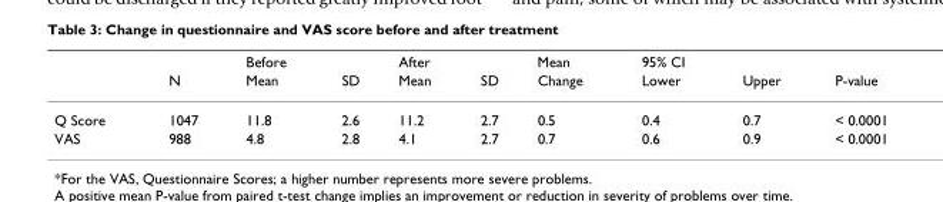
<table><thead><tr><td rowspan="2"></td><td rowspan="2">N</td><td rowspan="2">Before Mean</td><td rowspan="2">SD</td><td rowspan="2">After Mean</td><td rowspan="2">SD</td><td rowspan="2">Mean Change</td><td rowspan="2">95% CI Lower</td><td rowspan="2">Upper</td><td rowspan="2">P-value</td></tr><tr></tr></thead><tbody><tr><td>Q Score</td><td>1047</td><td>11.8</td><td>2.6</td><td>11.2</td><td>2.7</td><td>0.5</td><td>0.4</td><td>0.7</td><td>&lt; 0.0001</td></tr><tr><td>VAS</td><td>988</td><td>4.8</td><td>2.8</td><td>4.1</td><td>2.7</td><td>0.7</td><td>0.6</td><td>0.9</td><td>&lt; 0.0001</td></tr></tbody></table>